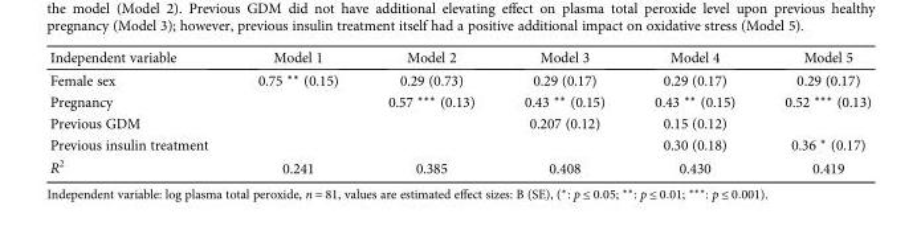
<table><thead><tr><td>Independent variable</td><td>Model 1</td><td>Model 2</td><td>Model 3</td><td>Model 4</td><td>Model 5</td></tr></thead><tbody><tr><td>Female sex</td><td>0.75 ∗∗ (0.15)</td><td>0.29 (0.73)</td><td>0.29 (0.17)</td><td>0.29 (0.17)</td><td>0.29 (0.17)</td></tr><tr><td>Pregnancy</td><td></td><td>0.57 ∗∗∗ (0.13)</td><td>0.43 ∗∗ (0.15)</td><td>0.43 ∗∗ (0.15)</td><td>0.52 ∗∗∗ (0.13)</td></tr><tr><td>Previous GDM</td><td></td><td></td><td>0.207 (0.12)</td><td>0.15 (0.12)</td><td></td></tr><tr><td>Previous insulin treatment</td><td></td><td></td><td></td><td>0.30 (0.18)</td><td>0.36 ∗ (0.17)</td></tr><tr><td>R<sup>2</sup></td><td>0.241</td><td>0.385</td><td>0.408</td><td>0.430</td><td>0.419</td></tr></tbody></table>